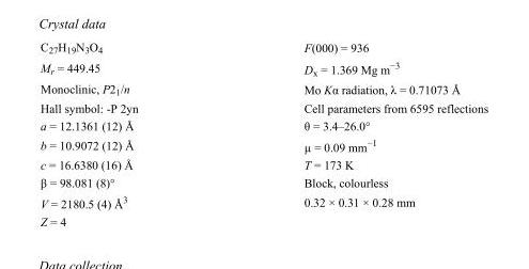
<table><tbody><tr><td>C<sub>27</sub>H<sub>19</sub>N<sub>3</sub>O<sub>4</sub></td><td>F(000) = 936</td></tr><tr><td>M<sub>r</sub> = 449.45</td><td>D<sub>x</sub> = 1.369 Mg m<sup>−3</sup></td></tr><tr><td>Monoclinic, P2<sub>1</sub>/n</td><td>Mo Kα radiation, λ = 0.71073 Å</td></tr><tr><td>Hall symbol: -P 2yn</td><td>Cell parameters from 6595 reflections</td></tr><tr><td>a = 12.1361 (12) Å</td><td>θ = 3.4–26.0°</td></tr><tr><td>b = 10.9072 (12) Å</td><td>µ = 0.09 mm<sup>−1</sup></td></tr><tr><td>c = 16.6380 (16) Å</td><td>T = 173 K</td></tr><tr><td>β = 98.081 (8)°</td><td>Block, colourless</td></tr><tr><td>V = 2180.5 (4) Å<sup>3</sup></td><td>0.32 × 0.31 × 0.28 mm</td></tr><tr><td>Z = 4</td><td></td></tr></tbody></table>